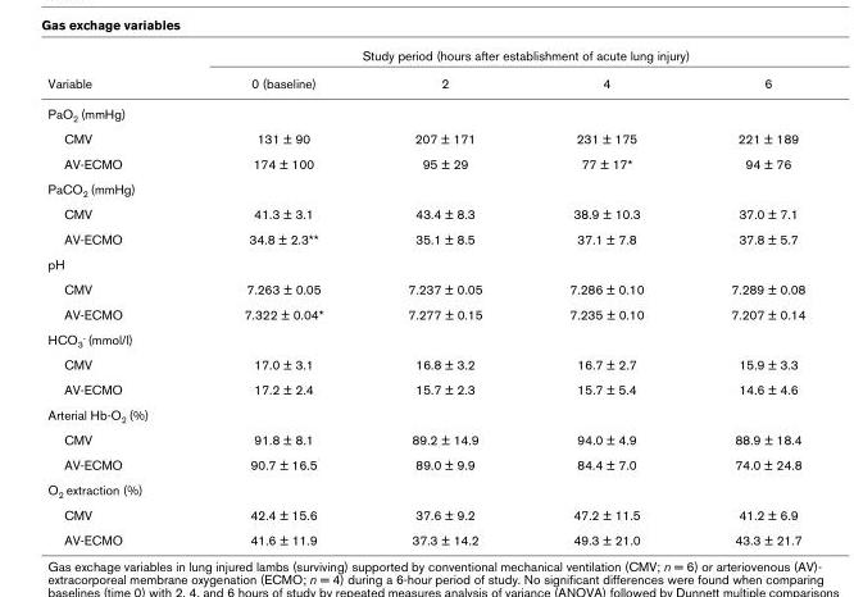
<table><thead><tr><td rowspan="2">Variable</td><td colspan="4">Study period (hours after establishment of acute lung injury)</td></tr><tr><td>0 (baseline)</td><td>2</td><td>4</td><td>6</td></tr></thead><tbody><tr><td colspan="5">PaO2 (mmHg)</td></tr><tr><td>CMV</td><td>131 ± 90</td><td>207 ± 171</td><td>231 ± 175</td><td>221 ± 189</td></tr><tr><td>AV-ECMO</td><td>174 ± 100</td><td>95 ± 29</td><td>77 ± 17*</td><td>94 ± 76</td></tr><tr><td colspan="5">PaCO2 (mmHg)</td></tr><tr><td>CMV</td><td>41.3 ± 3.1</td><td>43.4 ± 8.3</td><td>38.9 ± 10.3</td><td>37.0 ± 7.1</td></tr><tr><td>AV-ECMO</td><td>34.8 ± 2.3**</td><td>35.1 ± 8.5</td><td>37.1 ± 7.8</td><td>37.8 ± 5.7</td></tr><tr><td colspan="5">pH</td></tr><tr><td>CMV</td><td>7.263 ± 0.05</td><td>7.237 ± 0.05</td><td>7.286 ± 0.10</td><td>7.289 ± 0.08</td></tr><tr><td>AV-ECMO</td><td>7.322 ± 0.04*</td><td>7.277 ± 0.15</td><td>7.235 ± 0.10</td><td>7.207 ± 0.14</td></tr><tr><td colspan="5">HCO3- (mmol/l)</td></tr><tr><td>CMV</td><td>17.0 ± 3.1</td><td>16.8 ± 3.2</td><td>16.7 ± 2.7</td><td>15.9 ± 3.3</td></tr><tr><td>AV-ECMO</td><td>17.2 ± 2.4</td><td>15.7 ± 2.3</td><td>15.7 ± 5.4</td><td>14.6 ± 4.6</td></tr><tr><td colspan="5">Arterial Hb-O2 (%)</td></tr><tr><td>CMV</td><td>91.8 ± 8.1</td><td>89.2 ± 14.9</td><td>94.0 ± 4.9</td><td>88.9 ± 18.4</td></tr><tr><td>AV-ECMO</td><td>90.7 ± 16.5</td><td>89.0 ± 9.9</td><td>84.4 ± 7.0</td><td>74.0 ± 24.8</td></tr><tr><td colspan="5">O2 extraction (%)</td></tr><tr><td>CMV</td><td>42.4 ± 15.6</td><td>37.6 ± 9.2</td><td>47.2 ± 11.5</td><td>41.2 ± 6.9</td></tr><tr><td>AV-ECMO</td><td>41.6 ± 11.9</td><td>37.3 ± 14.2</td><td>49.3 ± 21.0</td><td>43.3 ± 21.7</td></tr></tbody></table>